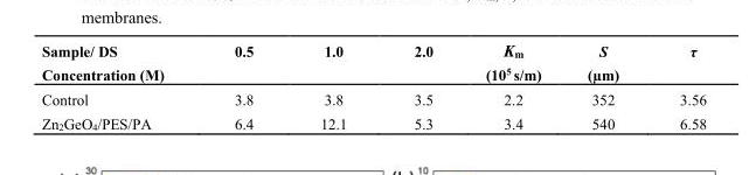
<table><thead><tr><td>Sample/ DS Concentration (M)</td><td>0.5</td><td>1.0</td><td>2.0</td><td>K<sub>m</sub> (10<sup>5</sup> s/m)</td><td>S (µm)</td><td>τ</td></tr></thead><tbody><tr><td>Control</td><td>3.8</td><td>3.8</td><td>3.5</td><td>2.2</td><td>352</td><td>3.56</td></tr><tr><td>Zn<sub>2</sub>GeO<sub>4</sub>/PES/PA</td><td>6.4</td><td>12.1</td><td>5.3</td><td>3.4</td><td>540</td><td>6.58</td></tr></tbody></table>